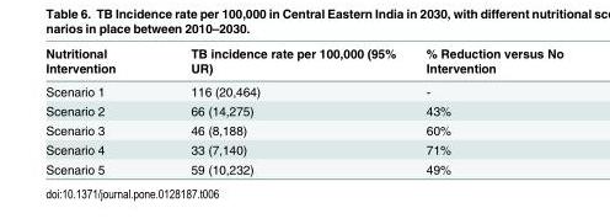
<table><thead><tr><td>Nutritional Intervention</td><td>TB incidence rate per 100,000 (95% UR)</td><td>% Reduction versus No Intervention</td></tr></thead><tbody><tr><td>Scenario 1</td><td>116 (20,464)</td><td>-</td></tr><tr><td>Scenario 2</td><td>66 (14,275)</td><td>43%</td></tr><tr><td>Scenario 3</td><td>46 (8,188)</td><td>60%</td></tr><tr><td>Scenario 4</td><td>33 (7,140)</td><td>71%</td></tr><tr><td>Scenario 5</td><td>59 (10,232)</td><td>49%</td></tr></tbody></table>